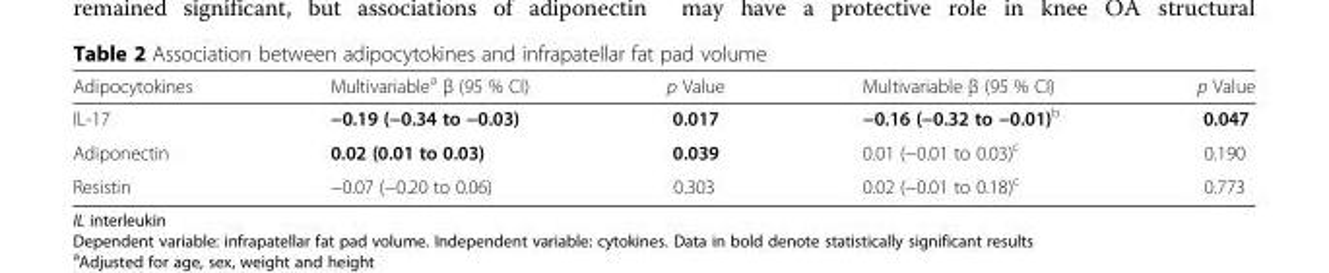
<table><thead><tr><td>Adipocytokines</td><td>Multivariable<sup>a</sup> β (95 % CI)</td><td>p Value</td><td>Multivariable β (95 % CI)</td><td>p Value</td></tr></thead><tbody><tr><td>IL-17</td><td>−0.19 (−0.34 to −0.03)</td><td>0.017</td><td>−0.16 (−0.32 to −0.01)<sup>b</sup></td><td>0.047</td></tr><tr><td>Adiponectin</td><td>0.02 (0.01 to 0.03)</td><td>0.039</td><td>0.01 (−0.01 to 0.03)<sup>c</sup></td><td>0.190</td></tr><tr><td>Resistin</td><td>−0.07 (−0.20 to 0.06)</td><td>0.303</td><td>0.02 (−0.01 to 0.18)<sup>c</sup></td><td>0.773</td></tr></tbody></table>